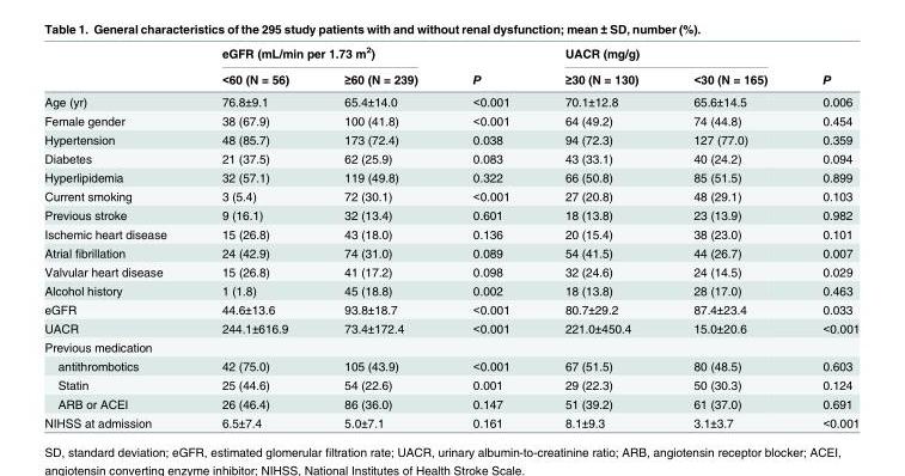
<table><thead><tr><td rowspan="2"></td><td colspan="2">eGFR (mL/min per 1.73 m<sup>2</sup>)</td><td rowspan="2">P</td><td colspan="2">UACR (mg/g)</td><td rowspan="2">P</td></tr><tr><td>&lt;60 (N = 56)</td><td>≥60 (N = 239)</td><td>≥30 (N = 130)</td><td>&lt;30 (N = 165)</td></tr></thead><tbody><tr><td>Age (yr)</td><td>76.8±9.1</td><td>65.4±14.0</td><td>&lt;0.001</td><td>70.1±12.8</td><td>65.6±14.5</td><td>0.006</td></tr><tr><td>Female gender</td><td>38 (67.9)</td><td>100 (41.8)</td><td>&lt;0.001</td><td>64 (49.2)</td><td>74 (44.8)</td><td>0.454</td></tr><tr><td>Hypertension</td><td>48 (85.7)</td><td>173 (72.4)</td><td>0.038</td><td>94 (72.3)</td><td>127 (77.0)</td><td>0.359</td></tr><tr><td>Diabetes</td><td>21 (37.5)</td><td>62 (25.9)</td><td>0.083</td><td>43 (33.1)</td><td>40 (24.2)</td><td>0.094</td></tr><tr><td>Hyperlipidemia</td><td>32 (57.1)</td><td>119 (49.8)</td><td>0.322</td><td>66 (50.8)</td><td>85 (51.5)</td><td>0.899</td></tr><tr><td>Current smoking</td><td>3 (5.4)</td><td>72 (30.1)</td><td>&lt;0.001</td><td>27 (20.8)</td><td>48 (29.1)</td><td>0.103</td></tr><tr><td>Previous stroke</td><td>9 (16.1)</td><td>32 (13.4)</td><td>0.601</td><td>18 (13.8)</td><td>23 (13.9)</td><td>0.982</td></tr><tr><td>Ischemic heart disease</td><td>15 (26.8)</td><td>43 (18.0)</td><td>0.136</td><td>20 (15.4)</td><td>38 (23.0)</td><td>0.101</td></tr><tr><td>Atrial fibrillation</td><td>24 (42.9)</td><td>74 (31.0)</td><td>0.089</td><td>54 (41.5)</td><td>44 (26.7)</td><td>0.007</td></tr><tr><td>Valvular heart disease</td><td>15 (26.8)</td><td>41 (17.2)</td><td>0.098</td><td>32 (24.6)</td><td>24 (14.5)</td><td>0.029</td></tr><tr><td>Alcohol history</td><td>1 (1.8)</td><td>45 (18.8)</td><td>0.002</td><td>18 (13.8)</td><td>28 (17.0)</td><td>0.463</td></tr><tr><td>eGFR</td><td>44.6±13.6</td><td>93.8±18.7</td><td>&lt;0.001</td><td>80.7±29.2</td><td>87.4±23.4</td><td>0.033</td></tr><tr><td>UACR</td><td>244.1±616.9</td><td>73.4±172.4</td><td>&lt;0.001</td><td>221.0±450.4</td><td>15.0±20.6</td><td>&lt;0.001</td></tr><tr><td colspan="7">Previous medication</td></tr><tr><td>antithrombotics</td><td>42 (75.0)</td><td>105 (43.9)</td><td>&lt;0.001</td><td>67 (51.5)</td><td>80 (48.5)</td><td>0.603</td></tr><tr><td>Statin</td><td>25 (44.6)</td><td>54 (22.6)</td><td>0.001</td><td>29 (22.3)</td><td>50 (30.3)</td><td>0.124</td></tr><tr><td>ARB or ACEI</td><td>26 (46.4)</td><td>86 (36.0)</td><td>0.147</td><td>51 (39.2)</td><td>61 (37.0)</td><td>0.691</td></tr><tr><td>NIHSS at admission</td><td>6.5±7.4</td><td>5.0±7.1</td><td>0.161</td><td>8.1±9.3</td><td>3.1±3.7</td><td>&lt;0.001</td></tr></tbody></table>